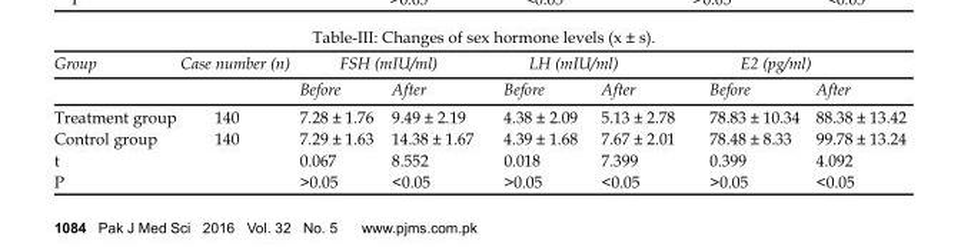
<table><thead><tr><td rowspan="2">Group</td><td rowspan="2">Case number (n)</td><td colspan="2">FSH (mIU/ml)</td><td colspan="2">LH (mIU/ml)</td><td colspan="2">E2 (pg/ml)</td></tr><tr><td>Before</td><td>After</td><td>Before</td><td>After</td><td>Before</td><td>After</td></tr></thead><tbody><tr><td>Treatment group</td><td>140</td><td>7.28 ± 1.76</td><td>9.49 ± 2.19</td><td>4.38 ± 2.09</td><td>5.13 ± 2.78</td><td>78.83 ± 10.34</td><td>88.38 ± 13.42</td></tr><tr><td>Control group</td><td>140</td><td>7.29 ± 1.63</td><td>14.38 ± 1.67</td><td>4.39 ± 1.68</td><td>7.67 ± 2.01</td><td>78.48 ± 8.33</td><td>99.78 ± 13.24</td></tr><tr><td>t</td><td></td><td>0.067</td><td>8.552</td><td>0.018</td><td>7.399</td><td>0.399</td><td>4.092</td></tr><tr><td>P</td><td></td><td>&gt;0.05</td><td>&lt;0.05</td><td>&gt;0.05</td><td>&lt;0.05</td><td>&gt;0.05</td><td>&lt;0.05</td></tr></tbody></table>